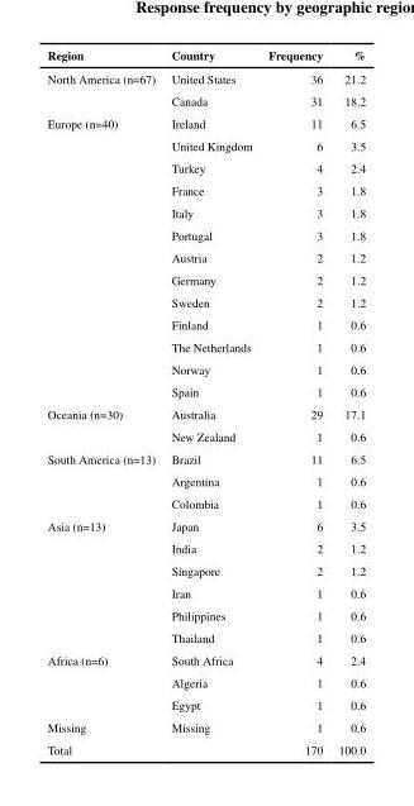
<table><thead><tr><td>Region</td><td>Country</td><td>Frequency</td><td>%</td></tr></thead><tbody><tr><td rowspan="2">North America (n=67)</td><td>United States</td><td>36</td><td>21.2</td></tr><tr><td>Canada</td><td>31</td><td>18.2</td></tr><tr><td rowspan="13">Europe (n=40)</td><td>Ireland</td><td>11</td><td>6.5</td></tr><tr><td>United Kingdom</td><td>6</td><td>3.5</td></tr><tr><td>Turkey</td><td>4</td><td>2.4</td></tr><tr><td>France</td><td>3</td><td>1.8</td></tr><tr><td>Italy</td><td>3</td><td>1.8</td></tr><tr><td>Portugal</td><td>3</td><td>1.8</td></tr><tr><td>Austria</td><td>2</td><td>1.2</td></tr><tr><td>Germany</td><td>2</td><td>1.2</td></tr><tr><td>Sweden</td><td>2</td><td>1.2</td></tr><tr><td>Finland</td><td>1</td><td>0.6</td></tr><tr><td>The Netherlands</td><td>1</td><td>0.6</td></tr><tr><td>Norway</td><td>1</td><td>0.6</td></tr><tr><td>Spain</td><td>1</td><td>0.6</td></tr><tr><td rowspan="2">Oceania (n=30)</td><td>Australia</td><td>29</td><td>17.1</td></tr><tr><td>New Zealand</td><td>1</td><td>0.6</td></tr><tr><td rowspan="3">South America (n=13)</td><td>Brazil</td><td>11</td><td>6.5</td></tr><tr><td>Argentina</td><td>1</td><td>0.6</td></tr><tr><td>Colombia</td><td>1</td><td>0.6</td></tr><tr><td rowspan="6">Asia (n=13)</td><td>Japan</td><td>6</td><td>3.5</td></tr><tr><td>India</td><td>2</td><td>1.2</td></tr><tr><td>Singapore</td><td>2</td><td>1.2</td></tr><tr><td>Iran</td><td>1</td><td>0.6</td></tr><tr><td>Philippines</td><td>1</td><td>0.6</td></tr><tr><td>Thailand</td><td>1</td><td>0.6</td></tr><tr><td rowspan="3">Africa (n=6)</td><td>South Africa</td><td>4</td><td>2.4</td></tr><tr><td>Algeria</td><td>1</td><td>0.6</td></tr><tr><td>Egypt</td><td>1</td><td>0.6</td></tr><tr><td>Missing</td><td>Missing</td><td>1</td><td>0.6</td></tr><tr><td>Total</td><td></td><td>170</td><td>100.0</td></tr></tbody></table>